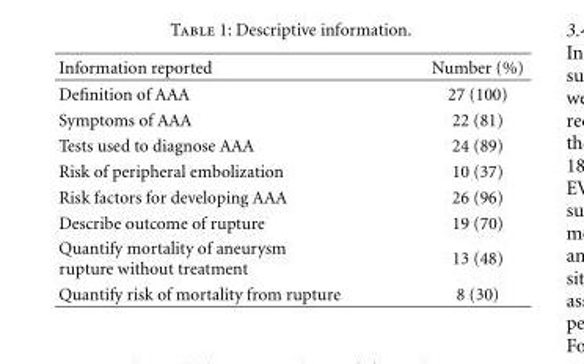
<table><thead><tr><td>Information reported</td><td>Number (%)</td></tr></thead><tbody><tr><td>Definition of AAA</td><td>27 (100)</td></tr><tr><td>Symptoms of AAA</td><td>22 (81)</td></tr><tr><td>Tests used to diagnose AAA</td><td>24 (89)</td></tr><tr><td>Risk of peripheral embolization</td><td>10 (37)</td></tr><tr><td>Risk factors for developing AAA</td><td>26 (96)</td></tr><tr><td>Describe outcome of rupture</td><td>19 (70)</td></tr><tr><td>Quantify mortality of aneurysm rupture without treatment</td><td>13 (48)</td></tr><tr><td>Quantify risk of mortality from rupture</td><td>8 (30)</td></tr></tbody></table>